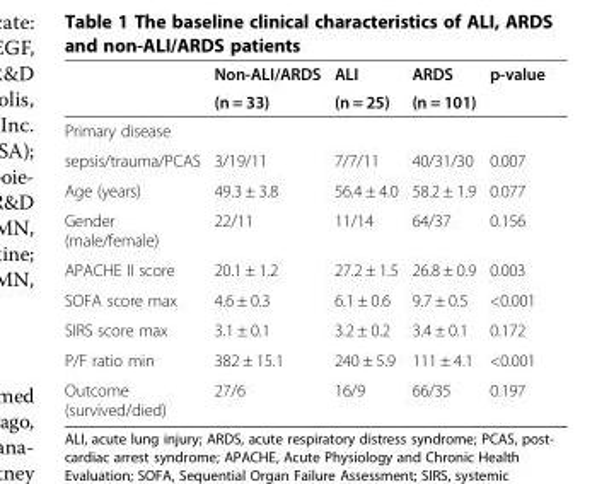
<table><thead><tr><td rowspan="2"></td><td rowspan="2">Non-ALI/ARDS (n = 33)</td><td rowspan="2">ALI (n = 25)</td><td rowspan="2">ARDS (n = 101)</td><td rowspan="2">p-value</td></tr><tr></tr></thead><tbody><tr><td colspan="5">Primary disease</td></tr><tr><td>sepsis/trauma/PCAS</td><td>3/19/11</td><td>7/7/11</td><td>40/31/30</td><td>0.007</td></tr><tr><td>Age (years)</td><td>49.3 ± 3.8</td><td>56.4 ± 4.0</td><td>58.2 ± 1.9</td><td>0.077</td></tr><tr><td>Gender (male/female)</td><td>22/11</td><td>11/14</td><td>64/37</td><td>0.156</td></tr><tr><td>APACHE II score</td><td>20.1 ± 1.2</td><td>27.2 ± 1.5</td><td>26.8 ± 0.9</td><td>0.003</td></tr><tr><td>SOFA score max</td><td>4.6 ± 0.3</td><td>6.1 ± 0.6</td><td>9.7 ± 0.5</td><td>&lt;0.001</td></tr><tr><td>SIRS score max</td><td>3.1 ± 0.1</td><td>3.2 ± 0.2</td><td>3.4 ± 0.1</td><td>0.172</td></tr><tr><td>P/F ratio min</td><td>382 ± 15.1</td><td>240 ± 5.9</td><td>111 ± 4.1</td><td>&lt;0.001</td></tr><tr><td>Outcome (survived/died)</td><td>27/6</td><td>16/9</td><td>66/35</td><td>0.197</td></tr></tbody></table>